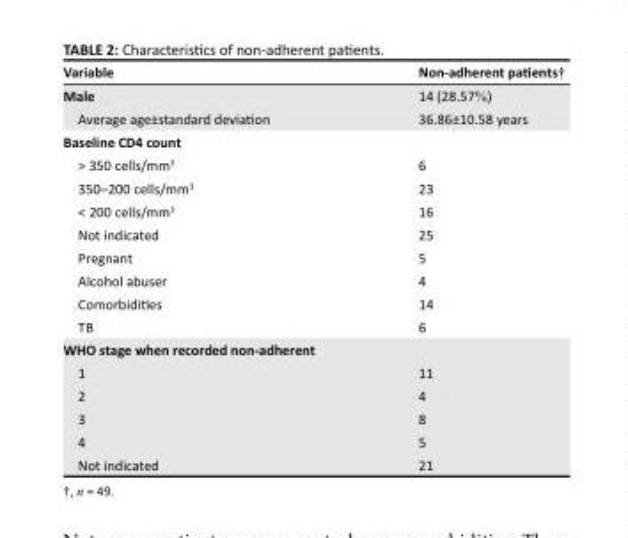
<table><thead><tr><td>Variable</td><td>Non-adherent patients†</td></tr></thead><tbody><tr><td>Male</td><td>14 (28.57%)</td></tr><tr><td>Average age±standard deviation</td><td>36.86±10.58 years</td></tr><tr><td colspan="2">Baseline CD4 count</td></tr><tr><td>&gt; 350 cells/mm<sup>3</sup></td><td>6</td></tr><tr><td>350–200 cells/mm<sup>3</sup></td><td>23</td></tr><tr><td>&lt; 200 cells/mm<sup>3</sup></td><td>16</td></tr><tr><td>Not indicated</td><td>25</td></tr><tr><td>Pregnant</td><td>5</td></tr><tr><td>Alcohol abuser</td><td>4</td></tr><tr><td>Comorbidities</td><td>14</td></tr><tr><td>TB</td><td>6</td></tr><tr><td colspan="2">WHO stage when recorded non-adherent</td></tr><tr><td>1</td><td>11</td></tr><tr><td>2</td><td>4</td></tr><tr><td>3</td><td>8</td></tr><tr><td>4</td><td>5</td></tr><tr><td>Not indicated</td><td>21</td></tr></tbody></table>